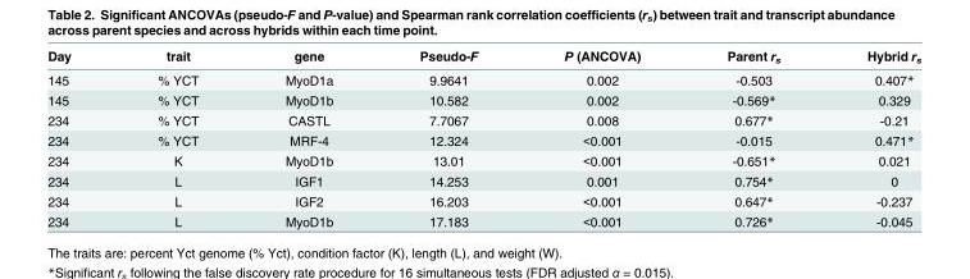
<table><thead><tr><td>Day</td><td>trait</td><td>gene</td><td>Pseudo-F</td><td>P (ANCOVA)</td><td>Parent r<sub>s</sub></td><td>Hybrid r<sub>s</sub></td></tr></thead><tbody><tr><td>145</td><td>% YCT</td><td>MyoD1a</td><td>9.9641</td><td>0.002</td><td>-0.503</td><td>0.407*</td></tr><tr><td>145</td><td>% YCT</td><td>MyoD1b</td><td>10.582</td><td>0.002</td><td>-0.569*</td><td>0.329</td></tr><tr><td>234</td><td>% YCT</td><td>CASTL</td><td>7.7067</td><td>0.008</td><td>0.677*</td><td>-0.21</td></tr><tr><td>234</td><td>% YCT</td><td>MRF-4</td><td>12.324</td><td>&lt;0.001</td><td>-0.015</td><td>0.471*</td></tr><tr><td>234</td><td>K</td><td>MyoD1b</td><td>13.01</td><td>&lt;0.001</td><td>-0.651*</td><td>0.021</td></tr><tr><td>234</td><td>L</td><td>IGF1</td><td>14.253</td><td>0.001</td><td>0.754*</td><td>0</td></tr><tr><td>234</td><td>L</td><td>IGF2</td><td>16.203</td><td>&lt;0.001</td><td>0.647*</td><td>-0.237</td></tr><tr><td>234</td><td>L</td><td>MyoD1b</td><td>17.183</td><td>&lt;0.001</td><td>0.726*</td><td>-0.045</td></tr></tbody></table>